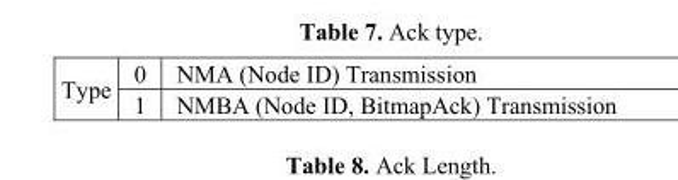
<table><tbody><tr><td rowspan="2">Type</td><td>0</td><td>NMA (Node ID) Transmission</td></tr><tr><td>1</td><td>NMBA (Node ID, BitmapAck) Transmission</td></tr></tbody></table>